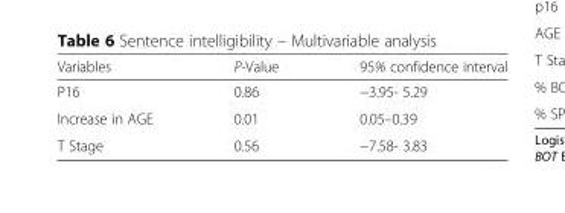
<table><thead><tr><td>Variables</td><td>P-Value</td><td>95% confidence interval</td></tr></thead><tbody><tr><td>P16</td><td>0.86</td><td>−3.95- 5.29</td></tr><tr><td>Increase in AGE</td><td>0.01</td><td>0.05–0.39</td></tr><tr><td>T Stage</td><td>0.56</td><td>−7.58- 3.83</td></tr></tbody></table>